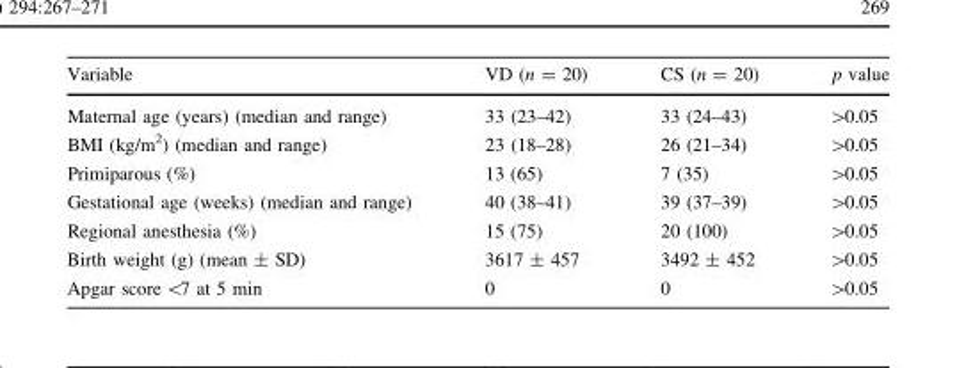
<table><thead><tr><td>Variable</td><td>VD (n = 20)</td><td>CS (n = 20)</td><td>p value</td></tr></thead><tbody><tr><td>Maternal age (years) (median and range)</td><td>33 (23–42)</td><td>33 (24–43)</td><td>&gt;0.05</td></tr><tr><td>BMI (kg/m<sup>2</sup>) (median and range)</td><td>23 (18–28)</td><td>26 (21–34)</td><td>&gt;0.05</td></tr><tr><td>Primiparous (%)</td><td>13 (65)</td><td>7 (35)</td><td>&gt;0.05</td></tr><tr><td>Gestational age (weeks) (median and range)</td><td>40 (38–41)</td><td>39 (37–39)</td><td>&gt;0.05</td></tr><tr><td>Regional anesthesia (%)</td><td>15 (75)</td><td>20 (100)</td><td>&gt;0.05</td></tr><tr><td>Birth weight (g) (mean ± SD)</td><td>3617 ± 457</td><td>3492 ± 452</td><td>&gt;0.05</td></tr><tr><td>Apgar score &lt;7 at 5 min</td><td>0</td><td>0</td><td>&gt;0.05</td></tr></tbody></table>